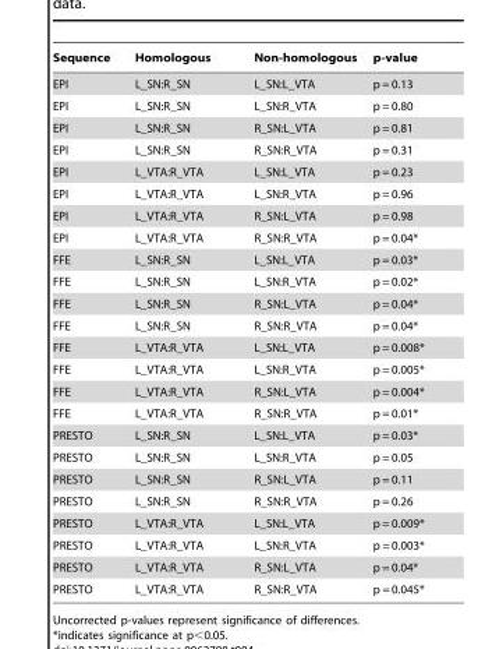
<table><thead><tr><td>Sequence</td><td>Homologous</td><td>Non-homologous</td><td>p-value</td></tr></thead><tbody><tr><td>EPI</td><td>L_SN:R_SN</td><td>L_SN:L_VTA</td><td>p = 0.13</td></tr><tr><td>EPI</td><td>L_SN:R_SN</td><td>L_SN:R_VTA</td><td>p = 0.80</td></tr><tr><td>EPI</td><td>L_SN:R_SN</td><td>R_SN:L_VTA</td><td>p = 0.81</td></tr><tr><td>EPI</td><td>L_SN:R_SN</td><td>R_SN:R_VTA</td><td>p = 0.31</td></tr><tr><td>EPI</td><td>L_VTA:R_VTA</td><td>L_SN:L_VTA</td><td>p = 0.23</td></tr><tr><td>EPI</td><td>L_VTA:R_VTA</td><td>L_SN:R_VTA</td><td>p = 0.96</td></tr><tr><td>EPI</td><td>L_VTA:R_VTA</td><td>R_SN:L_VTA</td><td>p = 0.98</td></tr><tr><td>EPI</td><td>L_VTA:R_VTA</td><td>R_SN:R_VTA</td><td>p = 0.04*</td></tr><tr><td>FFE</td><td>L_SN:R_SN</td><td>L_SN:L_VTA</td><td>p = 0.03*</td></tr><tr><td>FFE</td><td>L_SN:R_SN</td><td>L_SN:R_VTA</td><td>p = 0.02*</td></tr><tr><td>FFE</td><td>L_SN:R_SN</td><td>R_SN:L_VTA</td><td>p = 0.04*</td></tr><tr><td>FFE</td><td>L_SN:R_SN</td><td>R_SN:R_VTA</td><td>p = 0.04*</td></tr><tr><td>FFE</td><td>L_VTA:R_VTA</td><td>L_SN:L_VTA</td><td>p = 0.008*</td></tr><tr><td>FFE</td><td>L_VTA:R_VTA</td><td>L_SN:R_VTA</td><td>p = 0.005*</td></tr><tr><td>FFE</td><td>L_VTA:R_VTA</td><td>R_SN:L_VTA</td><td>p = 0.004*</td></tr><tr><td>FFE</td><td>L_VTA:R_VTA</td><td>R_SN:R_VTA</td><td>p = 0.01*</td></tr><tr><td>PRESTO</td><td>L_SN:R_SN</td><td>L_SN:L_VTA</td><td>p = 0.03*</td></tr><tr><td>PRESTO</td><td>L_SN:R_SN</td><td>L_SN:R_VTA</td><td>p = 0.05</td></tr><tr><td>PRESTO</td><td>L_SN:R_SN</td><td>R_SN:L_VTA</td><td>p = 0.11</td></tr><tr><td>PRESTO</td><td>L_SN:R_SN</td><td>R_SN:R_VTA</td><td>p = 0.26</td></tr><tr><td>PRESTO</td><td>L_VTA:R_VTA</td><td>L_SN:L_VTA</td><td>p = 0.009*</td></tr><tr><td>PRESTO</td><td>L_VTA:R_VTA</td><td>L_SN:R_VTA</td><td>p = 0.003*</td></tr><tr><td>PRESTO</td><td>L_VTA:R_VTA</td><td>R_SN:L_VTA</td><td>p = 0.04*</td></tr><tr><td>PRESTO</td><td>L_VTA:R_VTA</td><td>R_SN:R_VTA</td><td>p = 0.045*</td></tr></tbody></table>